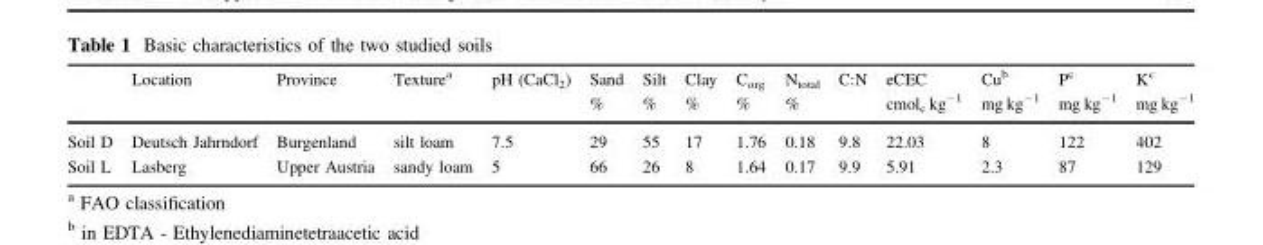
<table><thead><tr><td rowspan="2"></td><td rowspan="2">Location</td><td rowspan="2">Province</td><td rowspan="2">Texture<sup>a</sup></td><td rowspan="2">pH (CaCl<sub>2</sub>)</td><td rowspan="2">Sand %</td><td rowspan="2">Silt %</td><td rowspan="2">Clay %</td><td rowspan="2">C<sub>org</sub> %</td><td rowspan="2">N<sub>total</sub> %</td><td rowspan="2">C:N</td><td rowspan="2">eCEC cmol<sub>c</sub> kg<sup>−1</sup></td><td rowspan="2">Cu<sup>b</sup> mg kg<sup>−1</sup></td><td rowspan="2">P<sup>c</sup> mg kg<sup>−1</sup></td><td rowspan="2">K<sup>c</sup> mg kg<sup>−1</sup></td></tr><tr></tr></thead><tbody><tr><td>Soil D</td><td>Deutsch Jahrndorf</td><td>Burgenland</td><td>silt loam</td><td>7.5</td><td>29</td><td>55</td><td>17</td><td>1.76</td><td>0.18</td><td>9.8</td><td>22.03</td><td>8</td><td>122</td><td>402</td></tr><tr><td>Soil L</td><td>Lasberg</td><td>Upper Austria</td><td>sandy loam</td><td>5</td><td>66</td><td>26</td><td>8</td><td>1.64</td><td>0.17</td><td>9.9</td><td>5.91</td><td>2.3</td><td>87</td><td>129</td></tr></tbody></table>